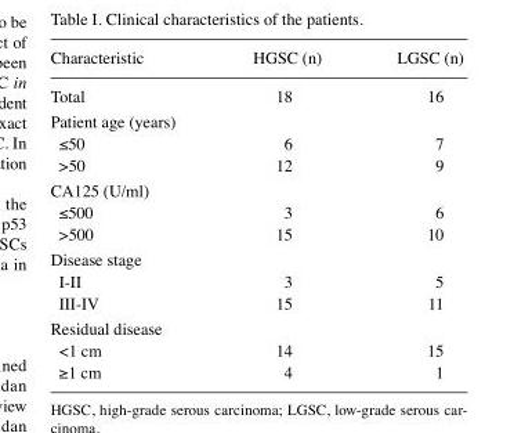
<table><thead><tr><td>Characteristic</td><td>HGSC (n)</td><td>LGSC (n)</td></tr></thead><tbody><tr><td>Total</td><td>18</td><td>16</td></tr><tr><td colspan="3">Patient age (years)</td></tr><tr><td>≤50</td><td>6</td><td>7</td></tr><tr><td>&gt;50</td><td>12</td><td>9</td></tr><tr><td colspan="3">CA125 (U/ml)</td></tr><tr><td>≤500</td><td>3</td><td>6</td></tr><tr><td>&gt;500</td><td>15</td><td>10</td></tr><tr><td colspan="3">Disease stage</td></tr><tr><td>Ⅰ-II</td><td>3</td><td>5</td></tr><tr><td>III-IV</td><td>15</td><td>11</td></tr><tr><td colspan="3">Residual disease</td></tr><tr><td>&lt;1 cm</td><td>14</td><td>15</td></tr><tr><td>≥1 cm</td><td>4</td><td>1</td></tr></tbody></table>